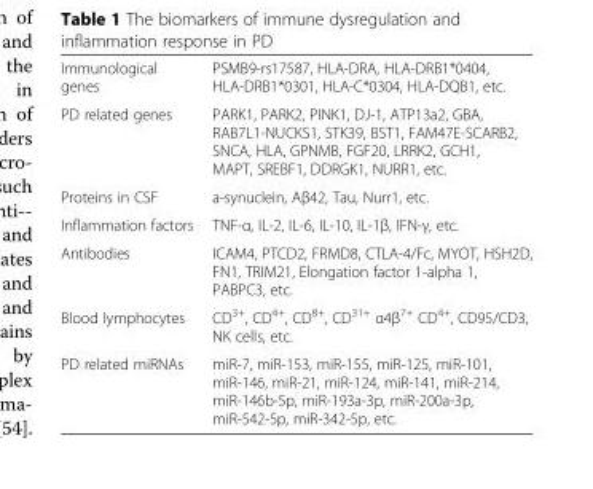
<table><tbody><tr><td>Immunological genes</td><td>PSMB9-rs17587, HLA-DRA, HLA-DRB1*0404, HLA-DRB1*0301, HLA-C*0304, HLA-DQB1, etc.</td></tr><tr><td>PD related genes</td><td>PARK1, PARK2, PINK1, DJ-1, ATP13a2, GBA, RAB7L1-NUCKS1, STK39, BST1, FAM47E-SCARB2, SNCA, HLA, GPNMB, FGF20, LRRK2, GCH1, MAPT, SREBF1, DDRGK1, NURR1, etc.</td></tr><tr><td>Proteins in CSF</td><td>a-synuclein, Aβ42, Tau, Nurr1, etc.</td></tr><tr><td>Inflammation factors</td><td>TNF-α, IL-2, IL-6, IL-10, IL-1β, IFN-γ, etc.</td></tr><tr><td>Antibodies</td><td>ICAM4, PTCD2, FRMD8, CTLA-4/Fc, MYOT, HSH2D, FN1, TRIM21, Elongation factor 1-alpha 1, PABPC3, etc.</td></tr><tr><td>Blood lymphocytes</td><td>CD<sup>3+</sup>, CD<sup>4+</sup>, CD<sup>8+</sup>, CD<sup>31+</sup> α4β<sup>7+</sup> CD<sup>4+</sup>, CD95/CD3, NK cells, etc.</td></tr><tr><td>PD related miRNAs</td><td>miR-7, miR-153, miR-155, miR-125, miR-101, miR-146, miR-21, miR-124, miR-141, miR-214, miR-146b-5p, miR-193a-3p, miR-200a-3p, miR-542-5p, miR-342-5p, etc.</td></tr></tbody></table>